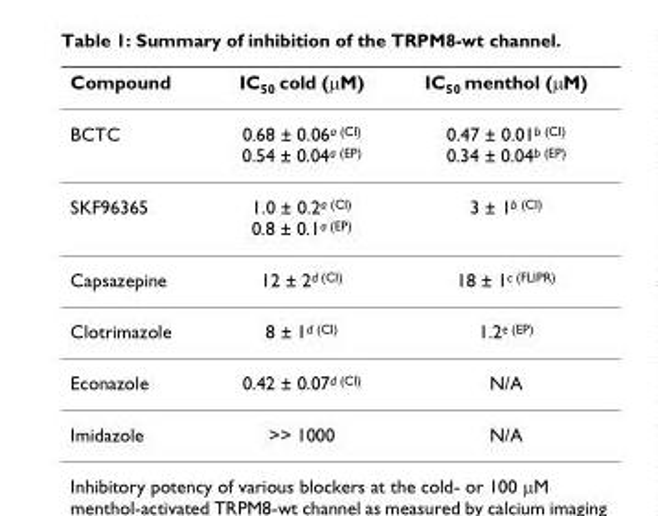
<table><thead><tr><td>Compound</td><td>IC<sub>50</sub> cold (μM)</td><td>IC<sub>50</sub> menthol (μM)</td></tr></thead><tbody><tr><td>BCTC</td><td>0.68 ± 0.06<sup>a (CI)</sup> 0.54 ± 0.04<sup>a (EP)</sup></td><td>0.47 ± 0.01<sup>b (CI)</sup> 0.34 ± 0.04<sup>b (EP)</sup></td></tr><tr><td>SKF96365</td><td>1.0 ± 0.2<sup>a (CI)</sup> 0.8 ± 0.1<sup>a (EP)</sup></td><td>3 ± 1<sup>b (CI)</sup></td></tr><tr><td>Capsazepine</td><td>12 ± 2<sup>d (CI)</sup></td><td>18 ± 1<sup>c (FLIPR)</sup></td></tr><tr><td>Clotrimazole</td><td>8 ± 1<sup>d (CI)</sup></td><td>1.2<sup>e (EP)</sup></td></tr><tr><td>Econazole</td><td>0.42 ± 0.07<sup>d (CI)</sup></td><td>N/A</td></tr><tr><td>Imidazole</td><td>&gt;&gt; 1000</td><td>N/A</td></tr></tbody></table>